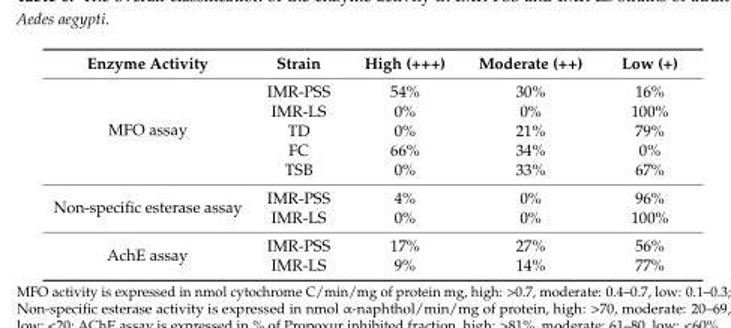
<table><thead><tr><td>Enzyme Activity</td><td>Strain</td><td>High (+++)</td><td>Moderate (++)</td><td>Low (+)</td></tr></thead><tbody><tr><td rowspan="5">MFO assay</td><td>IMR-PSS</td><td>54%</td><td>30%</td><td>16%</td></tr><tr><td>IMR-LS</td><td>0%</td><td>0%</td><td>100%</td></tr><tr><td>TD</td><td>0%</td><td>21%</td><td>79%</td></tr><tr><td>FC</td><td>66%</td><td>34%</td><td>0%</td></tr><tr><td>TSB</td><td>0%</td><td>33%</td><td>67%</td></tr><tr><td rowspan="2">Non-specific esterase assay</td><td>IMR-PSS</td><td>4%</td><td>0%</td><td>96%</td></tr><tr><td>IMR-LS</td><td>0%</td><td>0%</td><td>100%</td></tr><tr><td rowspan="2">AchE assay</td><td>IMR-PSS</td><td>17%</td><td>27%</td><td>56%</td></tr><tr><td>IMR-LS</td><td>9%</td><td>14%</td><td>77%</td></tr></tbody></table>